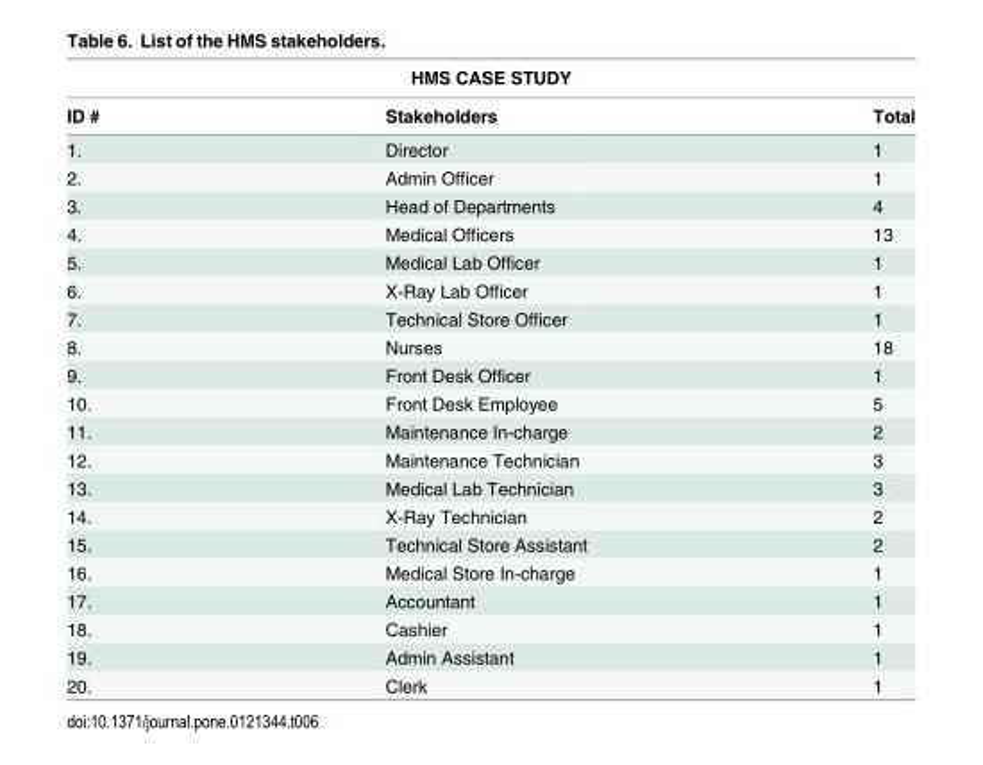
<table><thead><tr><td colspan="3">HMS CASE STUDY</td></tr><tr><td>ID #</td><td>Stakeholders</td><td>Total</td></tr></thead><tbody><tr><td>1.</td><td>Director</td><td>1</td></tr><tr><td>2.</td><td>Admin Officer</td><td>1</td></tr><tr><td>3.</td><td>Head of Departments</td><td>4</td></tr><tr><td>4.</td><td>Medical Officers</td><td>13</td></tr><tr><td>5.</td><td>Medical Lab Officer</td><td>1</td></tr><tr><td>6.</td><td>X-Ray Lab Officer</td><td>1</td></tr><tr><td>7.</td><td>Technical Store Officer</td><td>1</td></tr><tr><td>8.</td><td>Nurses</td><td>18</td></tr><tr><td>9.</td><td>Front Desk Officer</td><td>1</td></tr><tr><td>10.</td><td>Front Desk Employee</td><td>5</td></tr><tr><td>11.</td><td>Maintenance In-charge</td><td>2</td></tr><tr><td>12.</td><td>Maintenance Technician</td><td>3</td></tr><tr><td>13.</td><td>Medical Lab Technician</td><td>3</td></tr><tr><td>14.</td><td>X-Ray Technician</td><td>2</td></tr><tr><td>15.</td><td>Technical Store Assistant</td><td>2</td></tr><tr><td>16.</td><td>Medical Store In-charge</td><td>1</td></tr><tr><td>17.</td><td>Accountant</td><td>1</td></tr><tr><td>18.</td><td>Cashier</td><td>1</td></tr><tr><td>19.</td><td>Admin Assistant</td><td>1</td></tr><tr><td>20.</td><td>Clerk</td><td>1</td></tr></tbody></table>